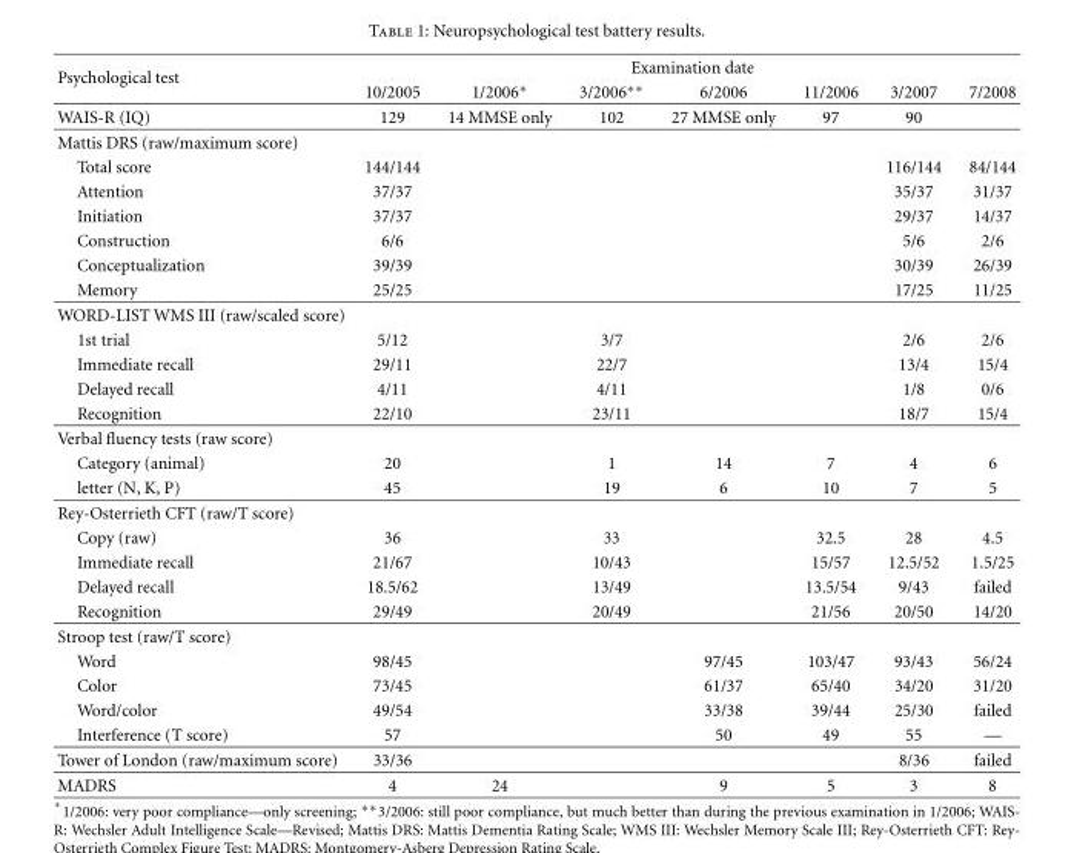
<table><thead><tr><td rowspan="2">Psychological test</td><td colspan="7">Examination date</td></tr><tr><td>10/2005</td><td>1/2006∗</td><td>3/2006∗∗</td><td>6/2006</td><td>11/2006</td><td>3/2007</td><td>7/2008</td></tr></thead><tbody><tr><td>WAIS-R (IQ)</td><td>129</td><td>14 MMSE only</td><td>102</td><td>27 MMSE only</td><td>97</td><td>90</td><td></td></tr><tr><td colspan="8">Mattis DRS (raw/maximum score)</td></tr><tr><td>Total score</td><td>144/144</td><td></td><td></td><td></td><td></td><td>116/144</td><td>84/144</td></tr><tr><td>Attention</td><td>37/37</td><td></td><td></td><td></td><td></td><td>35/37</td><td>31/37</td></tr><tr><td>Initiation</td><td>37/37</td><td></td><td></td><td></td><td></td><td>29/37</td><td>14/37</td></tr><tr><td>Construction</td><td>6/6</td><td></td><td></td><td></td><td></td><td>5/6</td><td>2/6</td></tr><tr><td>Conceptualization</td><td>39/39</td><td></td><td></td><td></td><td></td><td>30/39</td><td>26/39</td></tr><tr><td>Memory</td><td>25/25</td><td></td><td></td><td></td><td></td><td>17/25</td><td>11/25</td></tr><tr><td colspan="8">WORD-LIST WMS III (raw/scaled score)</td></tr><tr><td>1st trial</td><td>5/12</td><td></td><td>3/7</td><td></td><td></td><td>2/6</td><td>2/6</td></tr><tr><td>Immediate recall</td><td>29/11</td><td></td><td>22/7</td><td></td><td></td><td>13/4</td><td>15/4</td></tr><tr><td>Delayed recall</td><td>4/11</td><td></td><td>4/11</td><td></td><td></td><td>1/8</td><td>0/6</td></tr><tr><td>Recognition</td><td>22/10</td><td></td><td>23/11</td><td></td><td></td><td>18/7</td><td>15/4</td></tr><tr><td colspan="8">Verbal fluency tests (raw score)</td></tr><tr><td>Category (animal)</td><td>20</td><td></td><td>1</td><td>14</td><td>7</td><td>4</td><td>6</td></tr><tr><td>letter (N, K, P)</td><td>45</td><td></td><td>19</td><td>6</td><td>10</td><td>7</td><td>5</td></tr><tr><td colspan="8">Rey-Osterrieth CFT (raw/T score)</td></tr><tr><td>Copy (raw)</td><td>36</td><td></td><td>33</td><td></td><td>32.5</td><td>28</td><td>4.5</td></tr><tr><td>Immediate recall</td><td>21/67</td><td></td><td>10/43</td><td></td><td>15/57</td><td>12.5/52</td><td>1.5/25</td></tr><tr><td>Delayed recall</td><td>18.5/62</td><td></td><td>13/49</td><td></td><td>13.5/54</td><td>9/43</td><td>failed</td></tr><tr><td>Recognition</td><td>29/49</td><td></td><td>20/49</td><td></td><td>21/56</td><td>20/50</td><td>14/20</td></tr><tr><td colspan="8">Stroop test (raw/T score)</td></tr><tr><td>Word</td><td>98/45</td><td></td><td></td><td>97/45</td><td>103/47</td><td>93/43</td><td>56/24</td></tr><tr><td>Color</td><td>73/45</td><td></td><td></td><td>61/37</td><td>65/40</td><td>34/20</td><td>31/20</td></tr><tr><td>Word/color</td><td>49/54</td><td></td><td></td><td>33/38</td><td>39/44</td><td>25/30</td><td>failed</td></tr><tr><td>Interference (T score)</td><td>57</td><td></td><td></td><td>50</td><td>49</td><td>55</td><td>—</td></tr><tr><td>Tower of London (raw/maximum score)</td><td>33/36</td><td></td><td></td><td></td><td></td><td>8/36</td><td>failed</td></tr><tr><td>MADRS</td><td>4</td><td>24</td><td></td><td>9</td><td>5</td><td>3</td><td>8</td></tr></tbody></table>